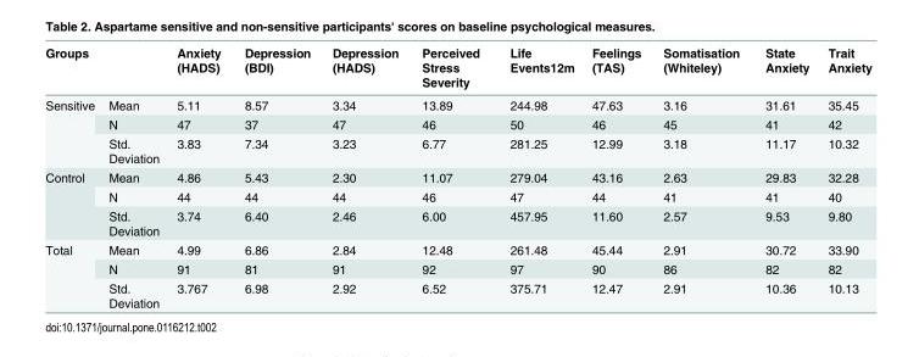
<table><thead><tr><td>Groups</td><td></td><td>Anxiety (HADS)</td><td>Depression (BDI)</td><td>Depression (HADS)</td><td>Perceived Stress Severity</td><td>Life Events12m</td><td>Feelings (TAS)</td><td>Somatisation (Whiteley)</td><td>State Anxiety</td><td>Trait Anxiety</td></tr></thead><tbody><tr><td rowspan="3">Sensitive</td><td>Mean</td><td>5.11</td><td>8.57</td><td>3.34</td><td>13.89</td><td>244.98</td><td>47.63</td><td>3.16</td><td>31.61</td><td>35.45</td></tr><tr><td>N</td><td>47</td><td>37</td><td>47</td><td>46</td><td>50</td><td>46</td><td>45</td><td>41</td><td>42</td></tr><tr><td>Std. Deviation</td><td>3.83</td><td>7.34</td><td>3.23</td><td>6.77</td><td>281.25</td><td>12.99</td><td>3.18</td><td>11.17</td><td>10.32</td></tr><tr><td rowspan="3">Control</td><td>Mean</td><td>4.86</td><td>5.43</td><td>2.30</td><td>11.07</td><td>279.04</td><td>43.16</td><td>2.63</td><td>29.83</td><td>32.28</td></tr><tr><td>N</td><td>44</td><td>44</td><td>44</td><td>46</td><td>47</td><td>44</td><td>41</td><td>41</td><td>40</td></tr><tr><td>Std. Deviation</td><td>3.74</td><td>6.40</td><td>2.46</td><td>6.00</td><td>457.95</td><td>11.60</td><td>2.57</td><td>9.53</td><td>9.80</td></tr><tr><td rowspan="3">Total</td><td>Mean</td><td>4.99</td><td>6.86</td><td>2.84</td><td>12.48</td><td>261.48</td><td>45.44</td><td>2.91</td><td>30.72</td><td>33.90</td></tr><tr><td>N</td><td>91</td><td>81</td><td>91</td><td>92</td><td>97</td><td>90</td><td>86</td><td>82</td><td>82</td></tr><tr><td>Std. Deviation</td><td>3.767</td><td>6.98</td><td>2.92</td><td>6.52</td><td>375.71</td><td>12.47</td><td>2.91</td><td>10.36</td><td>10.13</td></tr></tbody></table>